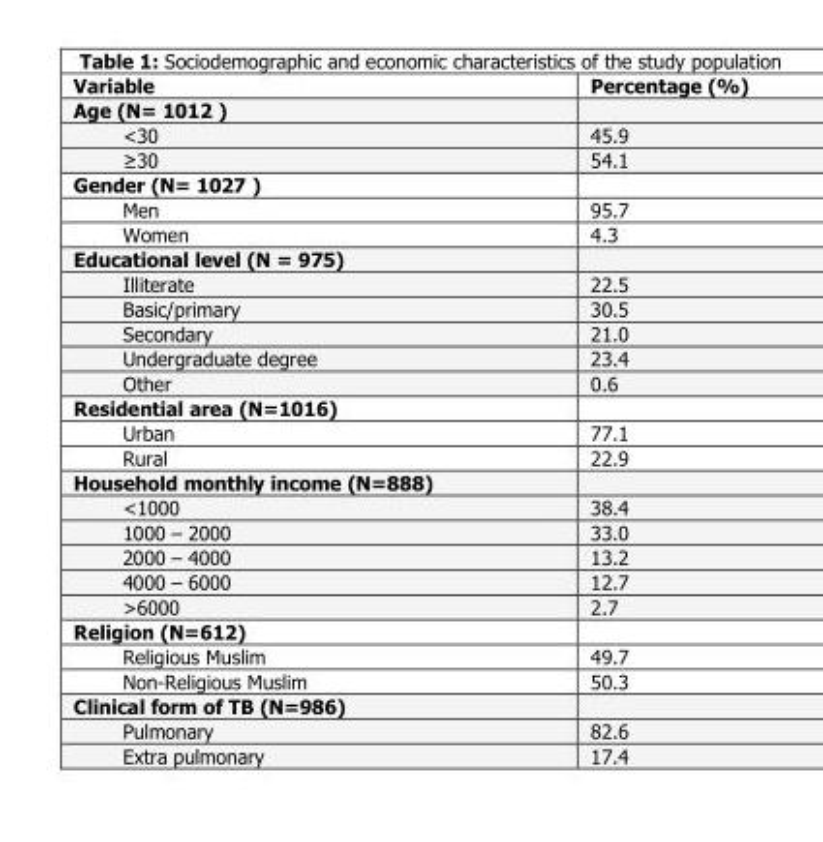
<table><thead><tr><td>Variable</td><td>Percentage (%)</td></tr></thead><tbody><tr><td colspan="2">Age (N= 1012 )</td></tr><tr><td>&lt;30</td><td>45.9</td></tr><tr><td>≥30</td><td>54.1</td></tr><tr><td colspan="2">Gender (N= 1027 )</td></tr><tr><td>Men</td><td>95.7</td></tr><tr><td>Women</td><td>4.3</td></tr><tr><td colspan="2">Educational level (N = 975)</td></tr><tr><td>Illiterate</td><td>22.5</td></tr><tr><td>Basic/primary</td><td>30.5</td></tr><tr><td>Secondary</td><td>21.0</td></tr><tr><td>Undergraduate degree</td><td>23.4</td></tr><tr><td>Other</td><td>0.6</td></tr><tr><td colspan="2">Residential area (N=1016)</td></tr><tr><td>Urban</td><td>77.1</td></tr><tr><td>Rural</td><td>22.9</td></tr><tr><td colspan="2">Household monthly income (N=888)</td></tr><tr><td>&lt;1000</td><td>38.4</td></tr><tr><td>1000 – 2000</td><td>33.0</td></tr><tr><td>2000 – 4000</td><td>13.2</td></tr><tr><td>4000 – 6000</td><td>12.7</td></tr><tr><td>&gt;6000</td><td>2.7</td></tr><tr><td colspan="2">Religion (N=612)</td></tr><tr><td>Religious Muslim</td><td>49.7</td></tr><tr><td>Non-Religious Muslim</td><td>50.3</td></tr><tr><td colspan="2">Clinical form of TB (N=986)</td></tr><tr><td>Pulmonary</td><td>82.6</td></tr><tr><td>Extra pulmonary</td><td>17.4</td></tr></tbody></table>